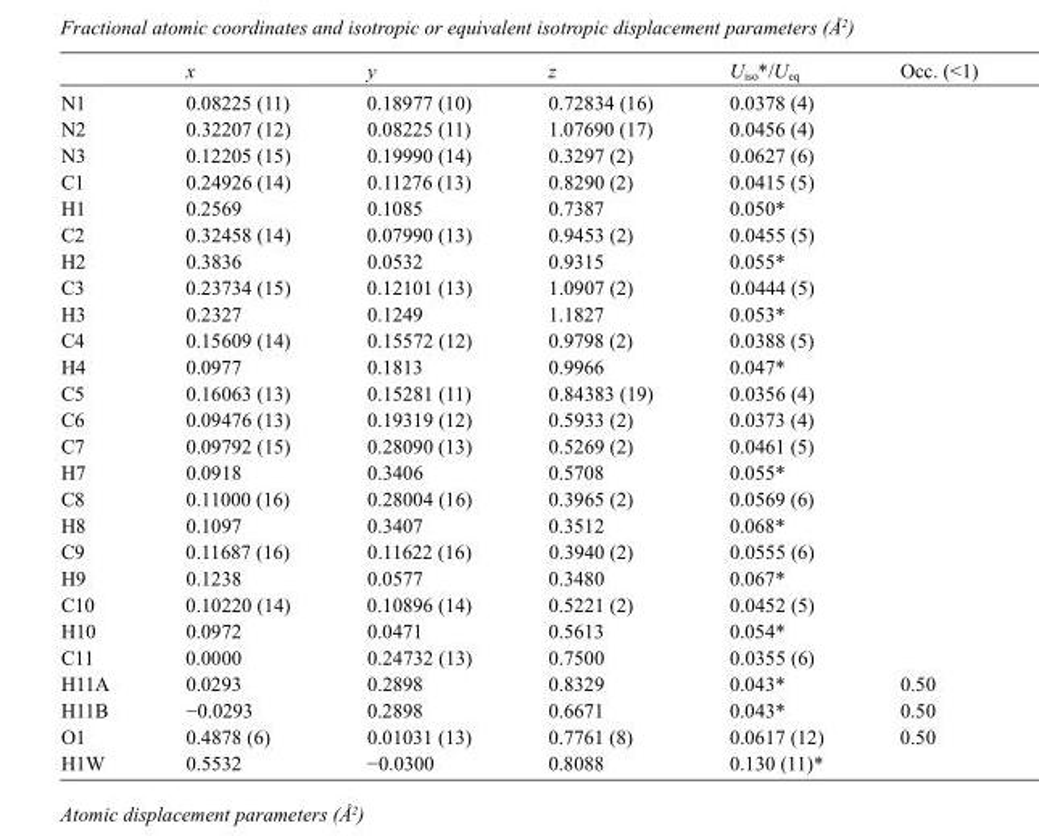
<table><thead><tr><td></td><td>x</td><td>y</td><td>z</td><td>U<sub>iso</sub>*/U<sub>eq</sub></td><td>Occ. (&lt;1)</td></tr></thead><tbody><tr><td>N1</td><td>0.08225 (11)</td><td>0.18977 (10)</td><td>0.72834 (16)</td><td>0.0378 (4)</td><td></td></tr><tr><td>N2</td><td>0.32207 (12)</td><td>0.08225 (11)</td><td>1.07690 (17)</td><td>0.0456 (4)</td><td></td></tr><tr><td>N3</td><td>0.12205 (15)</td><td>0.19990 (14)</td><td>0.3297 (2)</td><td>0.0627 (6)</td><td></td></tr><tr><td>C1</td><td>0.24926 (14)</td><td>0.11276 (13)</td><td>0.8290 (2)</td><td>0.0415 (5)</td><td></td></tr><tr><td>H1</td><td>0.2569</td><td>0.1085</td><td>0.7387</td><td>0.050*</td><td></td></tr><tr><td>C2</td><td>0.32458 (14)</td><td>0.07990 (13)</td><td>0.9453 (2)</td><td>0.0455 (5)</td><td></td></tr><tr><td>H2</td><td>0.3836</td><td>0.0532</td><td>0.9315</td><td>0.055*</td><td></td></tr><tr><td>C3</td><td>0.23734 (15)</td><td>0.12101 (13)</td><td>1.0907 (2)</td><td>0.0444 (5)</td><td></td></tr><tr><td>H3</td><td>0.2327</td><td>0.1249</td><td>1.1827</td><td>0.053*</td><td></td></tr><tr><td>C4</td><td>0.15609 (14)</td><td>0.15572 (12)</td><td>0.9798 (2)</td><td>0.0388 (5)</td><td></td></tr><tr><td>H4</td><td>0.0977</td><td>0.1813</td><td>0.9966</td><td>0.047*</td><td></td></tr><tr><td>C5</td><td>0.16063 (13)</td><td>0.15281 (11)</td><td>0.84383 (19)</td><td>0.0356 (4)</td><td></td></tr><tr><td>C6</td><td>0.09476 (13)</td><td>0.19319 (12)</td><td>0.5933 (2)</td><td>0.0373 (4)</td><td></td></tr><tr><td>C7</td><td>0.09792 (15)</td><td>0.28090 (13)</td><td>0.5269 (2)</td><td>0.0461 (5)</td><td></td></tr><tr><td>H7</td><td>0.0918</td><td>0.3406</td><td>0.5708</td><td>0.055*</td><td></td></tr><tr><td>C8</td><td>0.11000 (16)</td><td>0.28004 (16)</td><td>0.3965 (2)</td><td>0.0569 (6)</td><td></td></tr><tr><td>H8</td><td>0.1097</td><td>0.3407</td><td>0.3512</td><td>0.068*</td><td></td></tr><tr><td>C9</td><td>0.11687 (16)</td><td>0.11622 (16)</td><td>0.3940 (2)</td><td>0.0555 (6)</td><td></td></tr><tr><td>H9</td><td>0.1238</td><td>0.0577</td><td>0.3480</td><td>0.067*</td><td></td></tr><tr><td>C10</td><td>0.10220 (14)</td><td>0.10896 (14)</td><td>0.5221 (2)</td><td>0.0452 (5)</td><td></td></tr><tr><td>H10</td><td>0.0972</td><td>0.0471</td><td>0.5613</td><td>0.054*</td><td></td></tr><tr><td>C11</td><td>0.0000</td><td>0.24732 (13)</td><td>0.7500</td><td>0.0355 (6)</td><td></td></tr><tr><td>H11A</td><td>0.0293</td><td>0.2898</td><td>0.8329</td><td>0.043*</td><td>0.50</td></tr><tr><td>H11B</td><td>−0.0293</td><td>0.2898</td><td>0.6671</td><td>0.043*</td><td>0.50</td></tr><tr><td>O1</td><td>0.4878 (6)</td><td>0.01031 (13)</td><td>0.7761 (8)</td><td>0.0617 (12)</td><td>0.50</td></tr><tr><td>H1W</td><td>0.5532</td><td>−0.0300</td><td>0.8088</td><td>0.130 (11)*</td><td></td></tr></tbody></table>